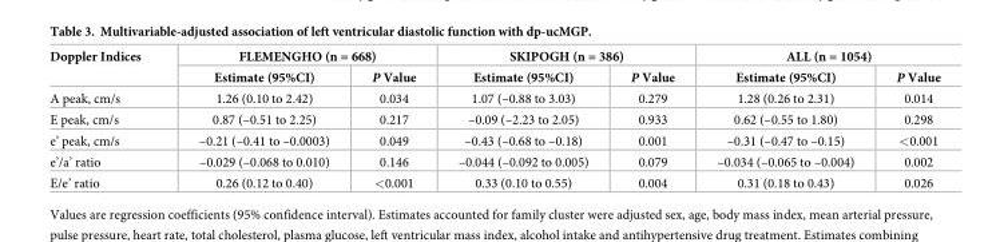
<table><thead><tr><td rowspan="2">Doppler Indices</td><td colspan="2">FLEMENGHO (n = 668)</td><td colspan="2">SKIPOGH (n = 386)</td><td colspan="2">ALL (n = 1054)</td></tr><tr><td>Estimate (95%CI)</td><td>P Value</td><td>Estimate (95%CI)</td><td>P Value</td><td>Estimate (95%CI)</td><td>P Value</td></tr></thead><tbody><tr><td>A peak, cm/s</td><td>1.26 (0.10 to 2.42)</td><td>0.034</td><td>1.07 (–0.88 to 3.03)</td><td>0.279</td><td>1.28 (0.26 to 2.31)</td><td>0.014</td></tr><tr><td>E peak, cm/s</td><td>0.87 (–0.51 to 2.25)</td><td>0.217</td><td>–0.09 (–2.23 to 2.05)</td><td>0.933</td><td>0.62 (–0.55 to 1.80)</td><td>0.298</td></tr><tr><td>e’ peak, cm/s</td><td>–0.21 (–0.41 to –0.0003)</td><td>0.049</td><td>–0.43 (–0.68 to –0.18)</td><td>0.001</td><td>–0.31 (–0.47 to –0.15)</td><td>&lt;0.001</td></tr><tr><td>e’/a’ ratio</td><td>–0.029 (–0.068 to 0.010)</td><td>0.146</td><td>–0.044 (–0.092 to 0.005)</td><td>0.079</td><td>–0.034 (–0.065 to –0.004)</td><td>0.002</td></tr><tr><td>E/e’ ratio</td><td>0.26 (0.12 to 0.40)</td><td>&lt;0.001</td><td>0.33 (0.10 to 0.55)</td><td>0.004</td><td>0.31 (0.18 to 0.43)</td><td>0.026</td></tr></tbody></table>